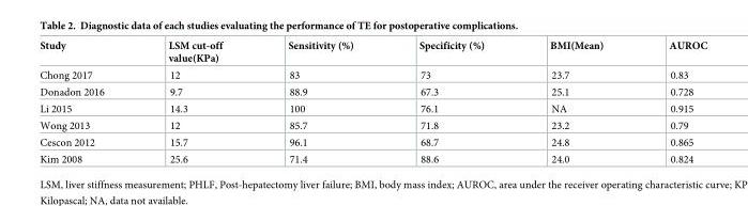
<table><thead><tr><td>Study</td><td>LSM cut-off value(KPa)</td><td>Sensitivity (%)</td><td>Specificity (%)</td><td>BMI(Mean)</td><td>AUROC</td></tr></thead><tbody><tr><td>Chong 2017</td><td>12</td><td>83</td><td>73</td><td>23.7</td><td>0.83</td></tr><tr><td>Donadon 2016</td><td>9.7</td><td>88.9</td><td>67.3</td><td>25.1</td><td>0.728</td></tr><tr><td>Li 2015</td><td>14.3</td><td>100</td><td>76.1</td><td>NA</td><td>0.915</td></tr><tr><td>Wong 2013</td><td>12</td><td>85.7</td><td>71.8</td><td>23.2</td><td>0.79</td></tr><tr><td>Cescon 2012</td><td>15.7</td><td>96.1</td><td>68.7</td><td>24.8</td><td>0.865</td></tr><tr><td>Kim 2008</td><td>25.6</td><td>71.4</td><td>88.6</td><td>24.0</td><td>0.824</td></tr></tbody></table>